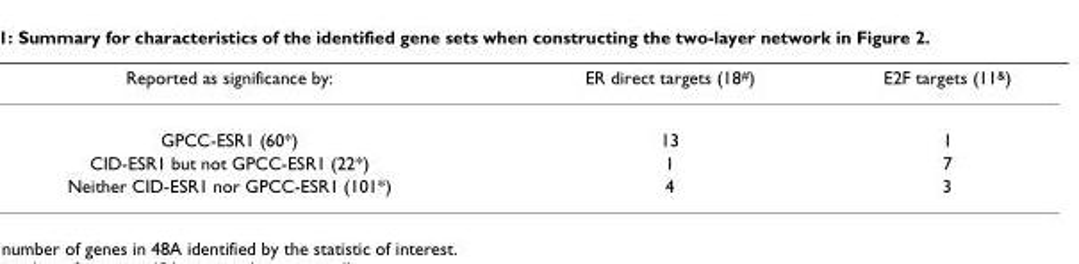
<table><thead><tr><td>Reported as significance by:</td><td>ER direct targets (18<sup>#</sup>)</td><td>E2F targets (11<sup>&amp;</sup>)</td></tr></thead><tbody><tr><td>GPCC-ESR1 (60*)</td><td>13</td><td>1</td></tr><tr><td>CID-ESR1 but not GPCC-ESR1 (22*)</td><td>1</td><td>7</td></tr><tr><td>Neither CID-ESR1 nor GPCC-ESR1 (101*)</td><td>4</td><td>3</td></tr></tbody></table>